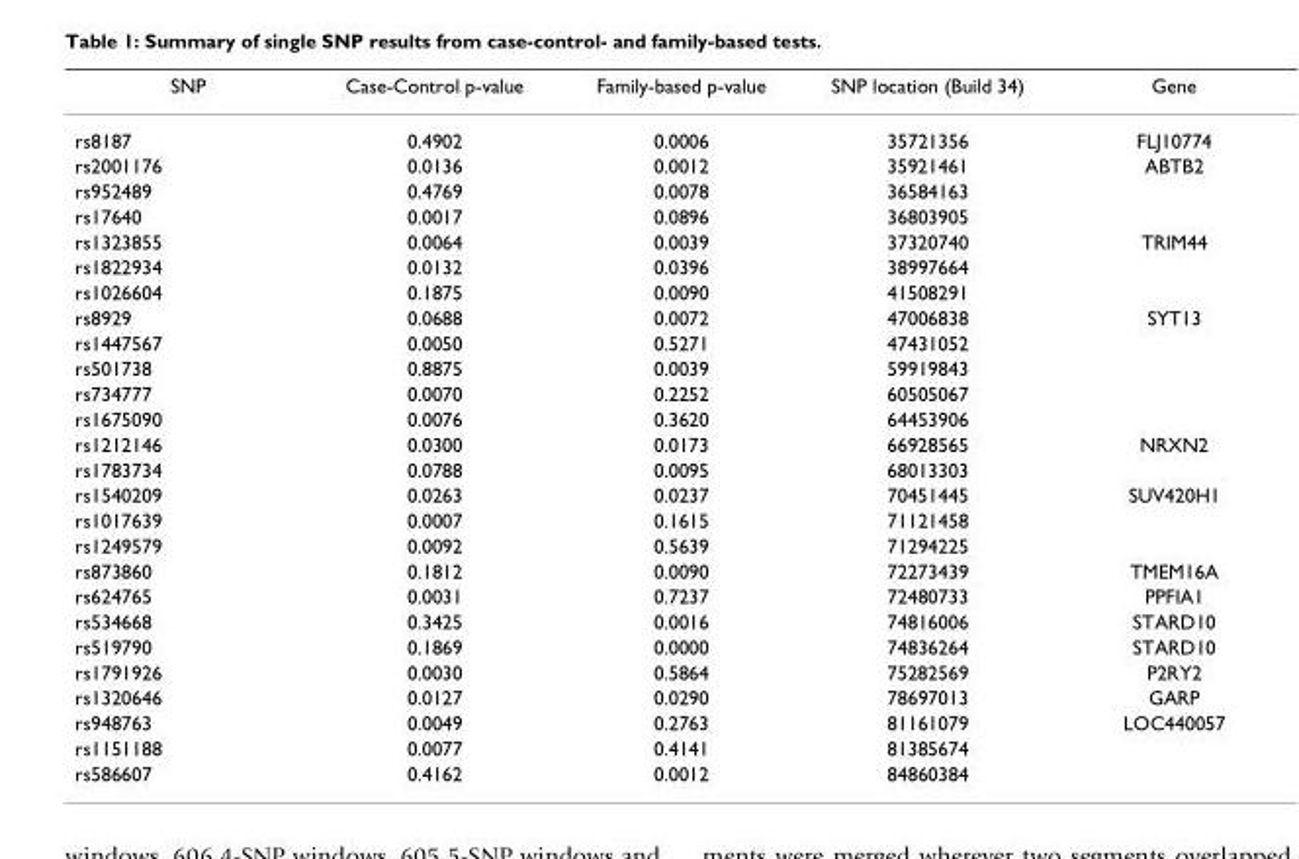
<table><thead><tr><td>SNP</td><td>Case-Control p-value</td><td>Family-based p-value</td><td>SNP location (Build 34)</td><td>Gene</td></tr></thead><tbody><tr><td>rs8187</td><td>0.4902</td><td>0.0006</td><td>35721356</td><td>FLJ10774</td></tr><tr><td>rs2001176</td><td>0.0136</td><td>0.0012</td><td>35921461</td><td>ABTB2</td></tr><tr><td>rs952489</td><td>0.4769</td><td>0.0078</td><td>36584163</td><td></td></tr><tr><td>rs17640</td><td>0.0017</td><td>0.0896</td><td>36803905</td><td></td></tr><tr><td>rs1323855</td><td>0.0064</td><td>0.0039</td><td>37320740</td><td>TRIM44</td></tr><tr><td>rs1822934</td><td>0.0132</td><td>0.0396</td><td>38997664</td><td></td></tr><tr><td>rs1026604</td><td>0.1875</td><td>0.0090</td><td>41508291</td><td></td></tr><tr><td>rs8929</td><td>0.0688</td><td>0.0072</td><td>47006838</td><td>SYT13</td></tr><tr><td>rs1447567</td><td>0.0050</td><td>0.5271</td><td>47431052</td><td></td></tr><tr><td>rs501738</td><td>0.8875</td><td>0.0039</td><td>59919843</td><td></td></tr><tr><td>rs734777</td><td>0.0070</td><td>0.2252</td><td>60505067</td><td></td></tr><tr><td>rs1675090</td><td>0.0076</td><td>0.3620</td><td>64453906</td><td></td></tr><tr><td>rs1212146</td><td>0.0300</td><td>0.0173</td><td>66928565</td><td>NRXN2</td></tr><tr><td>rs1783734</td><td>0.0788</td><td>0.0095</td><td>68013303</td><td></td></tr><tr><td>rs1540209</td><td>0.0263</td><td>0.0237</td><td>70451445</td><td>SUV420H1</td></tr><tr><td>rs1017639</td><td>0.0007</td><td>0.1615</td><td>71121458</td><td></td></tr><tr><td>rs1249579</td><td>0.0092</td><td>0.5639</td><td>71294225</td><td></td></tr><tr><td>rs873860</td><td>0.1812</td><td>0.0090</td><td>72273439</td><td>TMEM16A</td></tr><tr><td>rs624765</td><td>0.0031</td><td>0.7237</td><td>72480733</td><td>PPFIA1</td></tr><tr><td>rs534668</td><td>0.3425</td><td>0.0016</td><td>74816006</td><td>STARD10</td></tr><tr><td>rs519790</td><td>0.1869</td><td>0.0000</td><td>74836264</td><td>STARD10</td></tr><tr><td>rs1791926</td><td>0.0030</td><td>0.5864</td><td>75282569</td><td>P2RY2</td></tr><tr><td>rs1320646</td><td>0.0127</td><td>0.0290</td><td>78697013</td><td>GARP</td></tr><tr><td>rs948763</td><td>0.0049</td><td>0.2763</td><td>81161079</td><td>LOC440057</td></tr><tr><td>rs1151188</td><td>0.0077</td><td>0.4141</td><td>81385674</td><td></td></tr><tr><td>rs586607</td><td>0.4162</td><td>0.0012</td><td>84860384</td><td></td></tr></tbody></table>